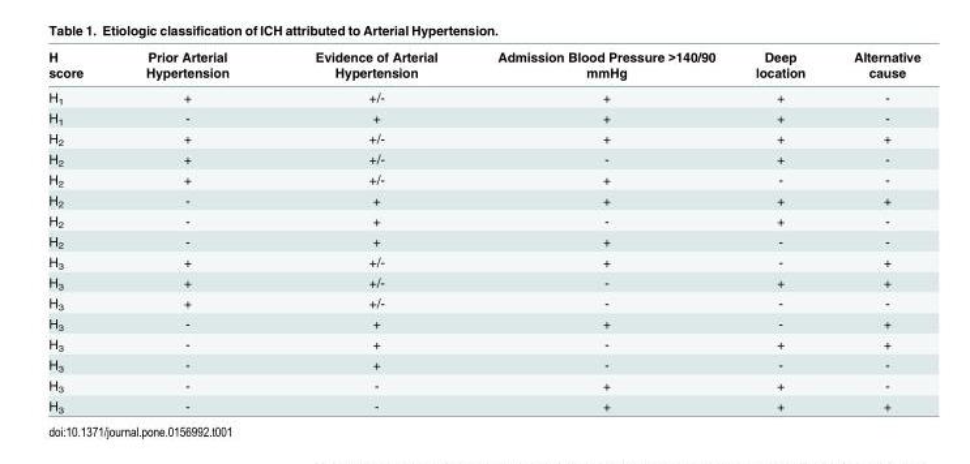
<table><thead><tr><td>H score</td><td>Prior Arterial Hypertension</td><td>Evidence of Arterial Hypertension</td><td>Admission Blood Pressure &gt;140/90 mmHg</td><td>Deep location</td><td>Alternative cause</td></tr></thead><tbody><tr><td>H<sub>1</sub></td><td>+</td><td>+/-</td><td>+</td><td>+</td><td>-</td></tr><tr><td>H<sub>1</sub></td><td>-</td><td>+</td><td>+</td><td>+</td><td>-</td></tr><tr><td>H<sub>2</sub></td><td>+</td><td>+/-</td><td>+</td><td>+</td><td>+</td></tr><tr><td>H<sub>2</sub></td><td>+</td><td>+/-</td><td>-</td><td>+</td><td>-</td></tr><tr><td>H<sub>2</sub></td><td>+</td><td>+/-</td><td>+</td><td>-</td><td>-</td></tr><tr><td>H<sub>2</sub></td><td>-</td><td>+</td><td>+</td><td>+</td><td>+</td></tr><tr><td>H<sub>2</sub></td><td>-</td><td>+</td><td>-</td><td>+</td><td>-</td></tr><tr><td>H<sub>2</sub></td><td>-</td><td>+</td><td>+</td><td>-</td><td>-</td></tr><tr><td>H<sub>3</sub></td><td>+</td><td>+/-</td><td>+</td><td>-</td><td>+</td></tr><tr><td>H<sub>3</sub></td><td>+</td><td>+/-</td><td>-</td><td>+</td><td>+</td></tr><tr><td>H<sub>3</sub></td><td>+</td><td>+/-</td><td>-</td><td>-</td><td>-</td></tr><tr><td>H<sub>3</sub></td><td>-</td><td>+</td><td>+</td><td>-</td><td>+</td></tr><tr><td>H<sub>3</sub></td><td>-</td><td>+</td><td>-</td><td>+</td><td>+</td></tr><tr><td>H<sub>3</sub></td><td>-</td><td>+</td><td>-</td><td>-</td><td>-</td></tr><tr><td>H<sub>3</sub></td><td>-</td><td>-</td><td>+</td><td>+</td><td>-</td></tr><tr><td>H<sub>3</sub></td><td>-</td><td>-</td><td>+</td><td>+</td><td>+</td></tr></tbody></table>